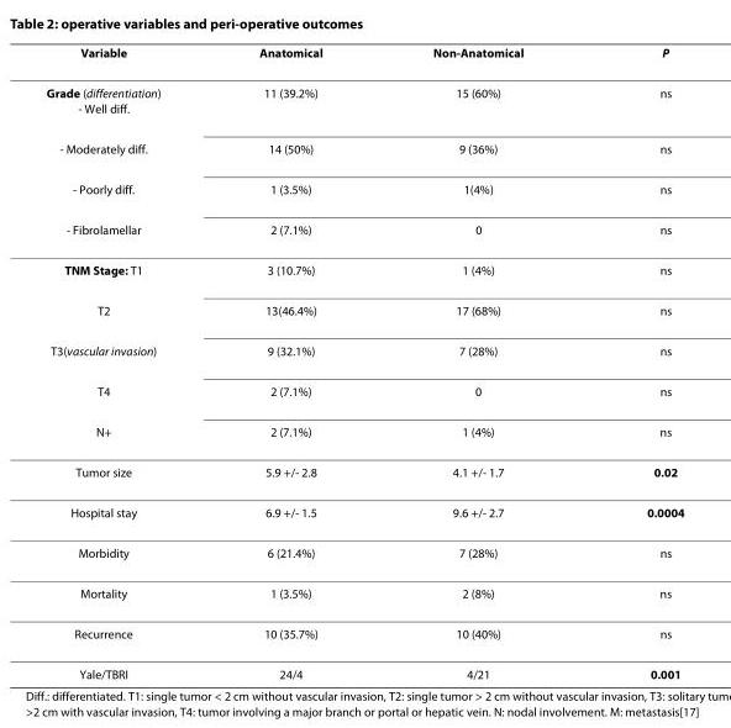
<table><thead><tr><td>Variable</td><td>Anatomical</td><td>Non-Anatomical</td><td>P</td></tr></thead><tbody><tr><td>Grade (differentiation) - Well diff.</td><td>11 (39.2%)</td><td>15 (60%)</td><td>ns</td></tr><tr><td>- Moderately diff.</td><td>14 (50%)</td><td>9 (36%)</td><td>ns</td></tr><tr><td>- Poorly diff.</td><td>1 (3.5%)</td><td>1(4%)</td><td>ns</td></tr><tr><td>- Fibrolamellar</td><td>2 (7.1%)</td><td>0</td><td>ns</td></tr><tr><td>TNM Stage: T1</td><td>3 (10.7%)</td><td>1 (4%)</td><td>ns</td></tr><tr><td>T2</td><td>13(46.4%)</td><td>17 (68%)</td><td>ns</td></tr><tr><td>T3(vascular invasion)</td><td>9 (32.1%)</td><td>7 (28%)</td><td>ns</td></tr><tr><td>T4</td><td>2 (7.1%)</td><td>0</td><td>ns</td></tr><tr><td>N+</td><td>2 (7.1%)</td><td>1 (4%)</td><td>ns</td></tr><tr><td>Tumor size</td><td>5.9 +/- 2.8</td><td>4.1 +/- 1.7</td><td>0.02</td></tr><tr><td>Hospital stay</td><td>6.9 +/- 1.5</td><td>9.6 +/- 2.7</td><td>0.0004</td></tr><tr><td>Morbidity</td><td>6 (21.4%)</td><td>7 (28%)</td><td>ns</td></tr><tr><td>Mortality</td><td>1 (3.5%)</td><td>2 (8%)</td><td>ns</td></tr><tr><td>Recurrence</td><td>10 (35.7%)</td><td>10 (40%)</td><td>ns</td></tr><tr><td>Yale/TBRI</td><td>24/4</td><td>4/21</td><td>0.001</td></tr></tbody></table>